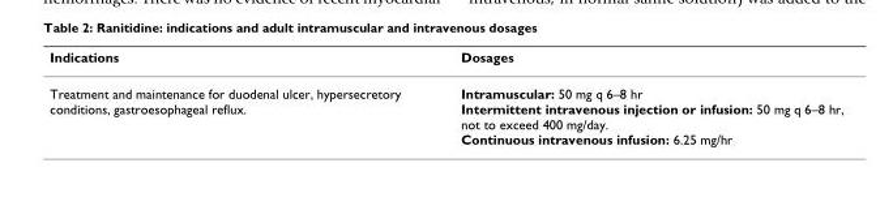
<table><thead><tr><td>Indications</td><td>Dosages</td></tr></thead><tbody><tr><td>Treatment and maintenance for duodenal ulcer, hypersecretory conditions, gastroesophageal reflux.</td><td>Intramuscular: 50 mg q 6–8 hr Intermittent intravenous injection or infusion: 50 mg q 6–8 hr, not to exceed 400 mg/day. Continuous intravenous infusion: 6.25 mg/hr</td></tr></tbody></table>